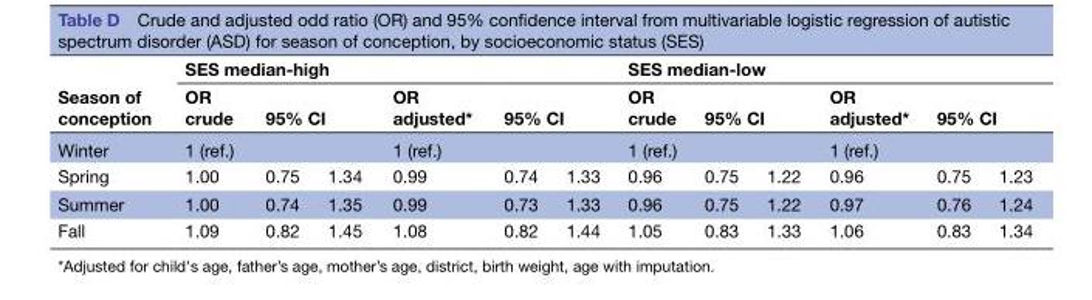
<table><thead><tr><td rowspan="3">Season of conception Winter</td><td colspan="6">SES median-high</td><td colspan="6">SES median-low</td></tr><tr><td rowspan="2">OR crude 1 (ref.)</td><td colspan="2">95% CI</td><td rowspan="2">OR adjusted* 1 (ref.)</td><td colspan="2">95% CI</td><td rowspan="2">OR crude 1 (ref.)</td><td colspan="2">95% CI</td><td rowspan="2">OR adjusted* 1 (ref.)</td><td colspan="2">95% CI</td></tr><tr><td></td><td></td><td></td><td></td><td></td><td></td><td></td><td></td></tr></thead><tbody><tr><td>Spring</td><td>1.00</td><td>0.75</td><td>1.34</td><td>0.99</td><td>0.74</td><td>1.33</td><td>0.96</td><td>0.75</td><td>1.22</td><td>0.96</td><td>0.75</td><td>1.23</td></tr><tr><td>Summer</td><td>1.00</td><td>0.74</td><td>1.35</td><td>0.99</td><td>0.73</td><td>1.33</td><td>0.96</td><td>0.75</td><td>1.22</td><td>0.97</td><td>0.76</td><td>1.24</td></tr><tr><td>Fall</td><td>1.09</td><td>0.82</td><td>1.45</td><td>1.08</td><td>0.82</td><td>1.44</td><td>1.05</td><td>0.83</td><td>1.33</td><td>1.06</td><td>0.83</td><td>1.34</td></tr></tbody></table>